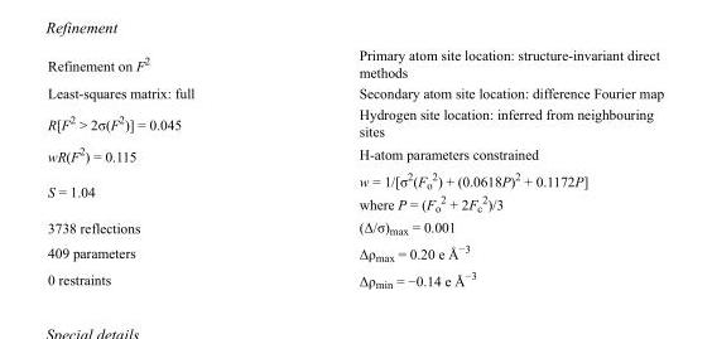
<table><tbody><tr><td>Refinement on F<sup>2</sup></td><td>Primary atom site location: structure-invariant direct methods</td></tr><tr><td>Least-squares matrix: full</td><td>Secondary atom site location: difference Fourier map</td></tr><tr><td>R[F<sup>2</sup> &gt; 2σ(F<sup>2</sup>)] = 0.045</td><td>Hydrogen site location: inferred from neighbouring sites</td></tr><tr><td>wR(F<sup>2</sup>) = 0.115</td><td>H-atom parameters constrained</td></tr><tr><td>S = 1.04</td><td>w = 1/[σ<sup>2</sup>(F<sub>o</sub> <sup>2</sup>) + (0.0618P)<sup>2</sup> + 0.1172P] where P = (F<sub>o</sub> <sup>2</sup> + 2F<sub>c</sub> <sup>2</sup>)/3</td></tr><tr><td>3738 reflections</td><td>(Δ/σ)<sub>max</sub> = 0.001</td></tr><tr><td>409 parameters</td><td>Δρ<sub>max</sub> = 0.20 e Å<sup>−3</sup></td></tr><tr><td>0 restraints</td><td>Δρmin = −0.14 e Å−3</td></tr></tbody></table>